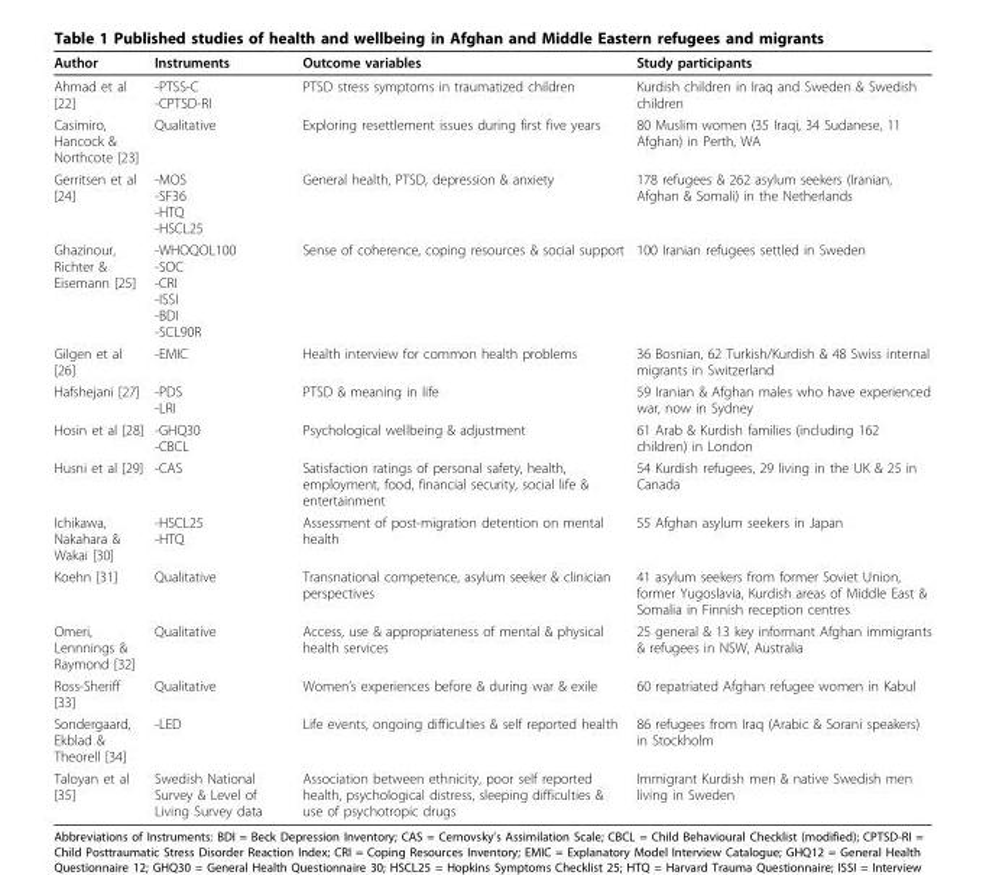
<table><thead><tr><td>Author</td><td>Instruments</td><td>Outcome variables</td><td>Study participants</td></tr></thead><tbody><tr><td>Ahmad et al [22]</td><td>-PTSS-C -CPTSD-RI</td><td>PTSD stress symptoms in traumatized children</td><td>Kurdish children in Iraq and Sweden &amp; Swedish children</td></tr><tr><td>Casimiro, Hancock &amp; Northcote [23]</td><td>Qualitative</td><td>Exploring resettlement issues during first five years</td><td>80 Muslim women (35 Iraqi, 34 Sudanese, 11 Afghan) in Perth, WA</td></tr><tr><td>Gerritsen et al [24]</td><td>-MOS -SF36 -HTQ -HSCL25</td><td>General health, PTSD, depression &amp; anxiety</td><td>178 refugees &amp; 262 asylum seekers (Iranian, Afghan &amp; Somali) in the Netherlands</td></tr><tr><td>Ghazinour, Richter &amp; Eisemann [25]</td><td>-WHOQOL100 -SOC -CRI -ISSI -BDI -SCL90R</td><td>Sense of coherence, coping resources &amp; social support</td><td>100 Iranian refugees settled in Sweden</td></tr><tr><td>Gilgen et al [26]</td><td>-EMIC</td><td>Health interview for common health problems</td><td>36 Bosnian, 62 Turkish/Kurdish &amp; 48 Swiss internal migrants in Switzerland</td></tr><tr><td>Hafshejani [27]</td><td>-PDS -LRI</td><td>PTSD &amp; meaning in life</td><td>59 Iranian &amp; Afghan males who have experienced war, now in Sydney</td></tr><tr><td>Hosin et al [28]</td><td>-GHQ30 -CBCL</td><td>Psychological wellbeing &amp; adjustment</td><td>61 Arab &amp; Kurdish families (including 162 children) in London</td></tr><tr><td>Husni et al [29]</td><td>-CAS</td><td>Satisfaction ratings of personal safety, health, employment, food, financial security, social life &amp; entertainment</td><td>54 Kurdish refugees, 29 living in the UK &amp; 25 in Canada</td></tr><tr><td>Ichikawa, Nakahara &amp; Wakai [30]</td><td>-HSCL25 -HTQ</td><td>Assessment of post-migration detention on mental health</td><td>55 Afghan asylum seekers in Japan</td></tr><tr><td>Koehn [31]</td><td>Qualitative</td><td>Transnational competence, asylum seeker &amp; clinician perspectives</td><td>41 asylum seekers from former Soviet Union, former Yugoslavia, Kurdish areas of Middle East &amp; Somalia in Finnish reception centres</td></tr><tr><td>Omeri, Lennnings &amp; Raymond [32]</td><td>Qualitative</td><td>Access, use &amp; appropriateness of mental &amp; physical health services</td><td>25 general &amp; 13 key informant Afghan immigrants &amp; refugees in NSW, Australia</td></tr><tr><td>Ross-Sheriff [33]</td><td>Qualitative</td><td>Women’s experiences before &amp; during war &amp; exile</td><td>60 repatriated Afghan refugee women in Kabul</td></tr><tr><td>Sondergaard, Ekblad &amp; Theorell [34]</td><td>-LED</td><td>Life events, ongoing difficulties &amp; self reported health</td><td>86 refugees from Iraq (Arabic &amp; Sorani speakers) in Stockholm</td></tr><tr><td>Taloyan et al [35]</td><td>Swedish National Survey &amp; Level of Living Survey data</td><td>Association between ethnicity, poor self reported health, psychological distress, sleeping difficulties &amp; use of psychotropic drugs</td><td>Immigrant Kurdish men &amp; native Swedish men living in Sweden</td></tr></tbody></table>